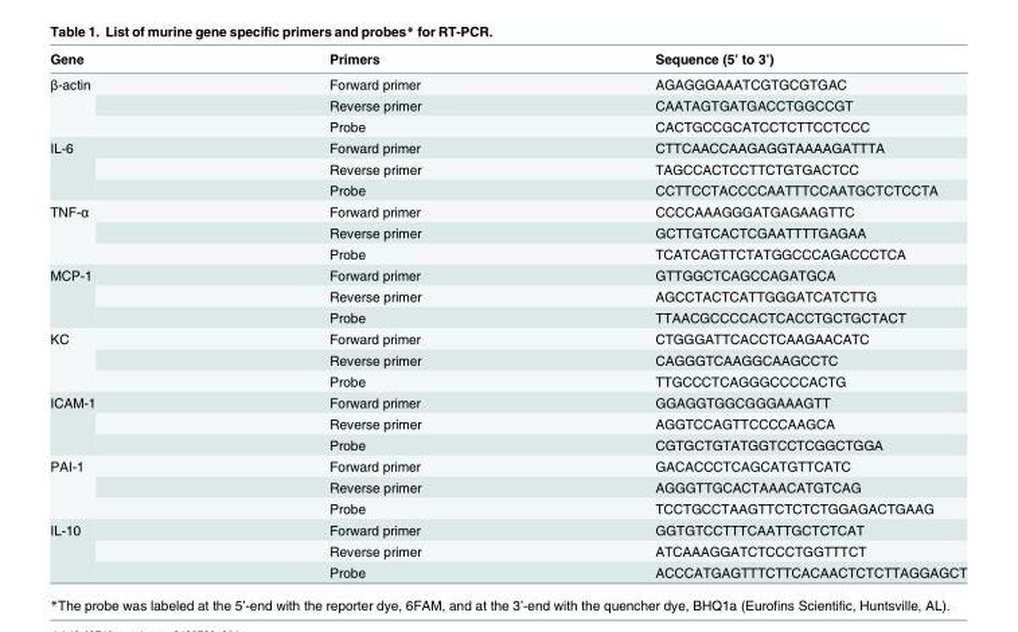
<table><thead><tr><td>Gene</td><td>Primers</td><td>Sequence (5’ to 3’)</td></tr></thead><tbody><tr><td rowspan="3">β-actin</td><td>Forward primer</td><td>AGAGGGAAATCGTGCGTGAC</td></tr><tr><td>Reverse primer</td><td>CAATAGTGATGACCTGGCCGT</td></tr><tr><td>Probe</td><td>CACTGCCGCATCCTCTTCCTCCC</td></tr><tr><td rowspan="3">IL-6</td><td>Forward primer</td><td>CTTCAACCAAGAGGTAAAAGATTTA</td></tr><tr><td>Reverse primer</td><td>TAGCCACTCCTTCTGTGACTCC</td></tr><tr><td>Probe</td><td>CCTTCCTACCCCAATTTCCAATGCTCTCCTA</td></tr><tr><td rowspan="3">TNF-α</td><td>Forward primer</td><td>CCCCAAAGGGATGAGAAGTTC</td></tr><tr><td>Reverse primer</td><td>GCTTGTCACTCGAATTTTGAGAA</td></tr><tr><td>Probe</td><td>TCATCAGTTCTATGGCCCAGACCCTCA</td></tr><tr><td rowspan="3">MCP-1</td><td>Forward primer</td><td>GTTGGCTCAGCCAGATGCA</td></tr><tr><td>Reverse primer</td><td>AGCCTACTCATTGGGATCATCTTG</td></tr><tr><td>Probe</td><td>TTAACGCCCCACTCACCTGCTGCTACT</td></tr><tr><td rowspan="3">KC</td><td>Forward primer</td><td>CTGGGATTCACCTCAAGAACATC</td></tr><tr><td>Reverse primer</td><td>CAGGGTCAAGGCAAGCCTC</td></tr><tr><td>Probe</td><td>TTGCCCTCAGGGCCCCACTG</td></tr><tr><td rowspan="3">ICAM-1</td><td>Forward primer</td><td>GGAGGTGGCGGGAAAGTT</td></tr><tr><td>Reverse primer</td><td>AGGTCCAGTTCCCCAAGCA</td></tr><tr><td>Probe</td><td>CGTGCTGTATGGTCCTCGGCTGGA</td></tr><tr><td rowspan="3">PAI-1</td><td>Forward primer</td><td>GACACCCTCAGCATGTTCATC</td></tr><tr><td>Reverse primer</td><td>AGGGTTGCACTAAACATGTCAG</td></tr><tr><td>Probe</td><td>TCCTGCCTAAGTTCTCTCTGGAGACTGAAG</td></tr><tr><td rowspan="3">IL-10</td><td>Forward primer</td><td>GGTGTCCTTTCAATTGCTCTCAT</td></tr><tr><td>Reverse primer</td><td>ATCAAAGGATCTCCCTGGTTTCT</td></tr><tr><td>Probe</td><td>ACCCATGAGTTTCTTCACAACTCTCTTAGGAGCT</td></tr></tbody></table>